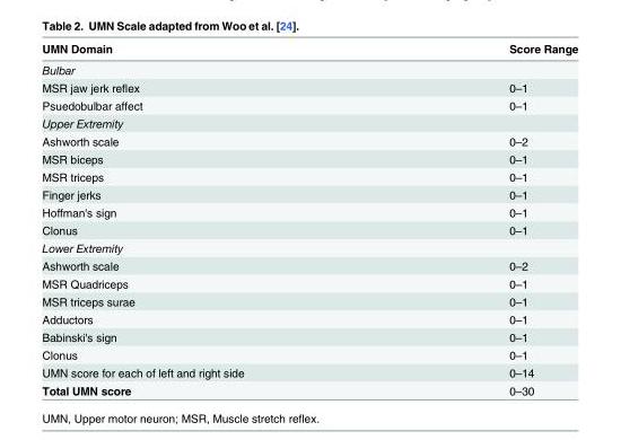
<table><thead><tr><td>UMN Domain</td><td>Score Range</td></tr></thead><tbody><tr><td colspan="2">Bulbar</td></tr><tr><td>MSR jaw jerk reflex</td><td>0–1</td></tr><tr><td>Psuedobulbar affect</td><td>0–1</td></tr><tr><td colspan="2">Upper Extremity</td></tr><tr><td>Ashworth scale</td><td>0–2</td></tr><tr><td>MSR biceps</td><td>0–1</td></tr><tr><td>MSR triceps</td><td>0–1</td></tr><tr><td>Finger jerks</td><td>0–1</td></tr><tr><td>Hoffman&#x27;s sign</td><td>0–1</td></tr><tr><td>Clonus</td><td>0–1</td></tr><tr><td colspan="2">Lower Extremity</td></tr><tr><td>Ashworth scale</td><td>0–2</td></tr><tr><td>MSR Quadriceps</td><td>0–1</td></tr><tr><td>MSR triceps surae</td><td>0–1</td></tr><tr><td>Adductors</td><td>0–1</td></tr><tr><td>Babinski&#x27;s sign</td><td>0–1</td></tr><tr><td>Clonus</td><td>0–1</td></tr><tr><td>UMN score for each of left and right side</td><td>0–14</td></tr><tr><td>Total UMN score</td><td>0–30</td></tr></tbody></table>